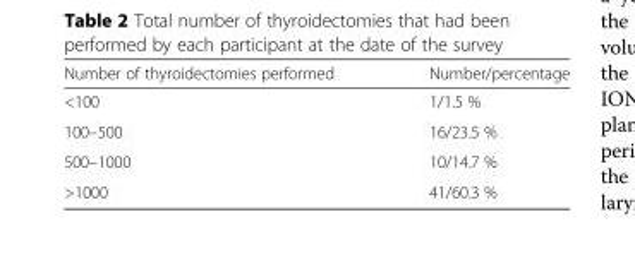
<table><thead><tr><td>Number of thyroidectomies performed</td><td>Number/percentage</td></tr></thead><tbody><tr><td>&lt;100</td><td>1/1.5 %</td></tr><tr><td>100–500</td><td>16/23.5 %</td></tr><tr><td>500–1000</td><td>10/14.7 %</td></tr><tr><td>&gt;1000</td><td>41/60.3 %</td></tr></tbody></table>